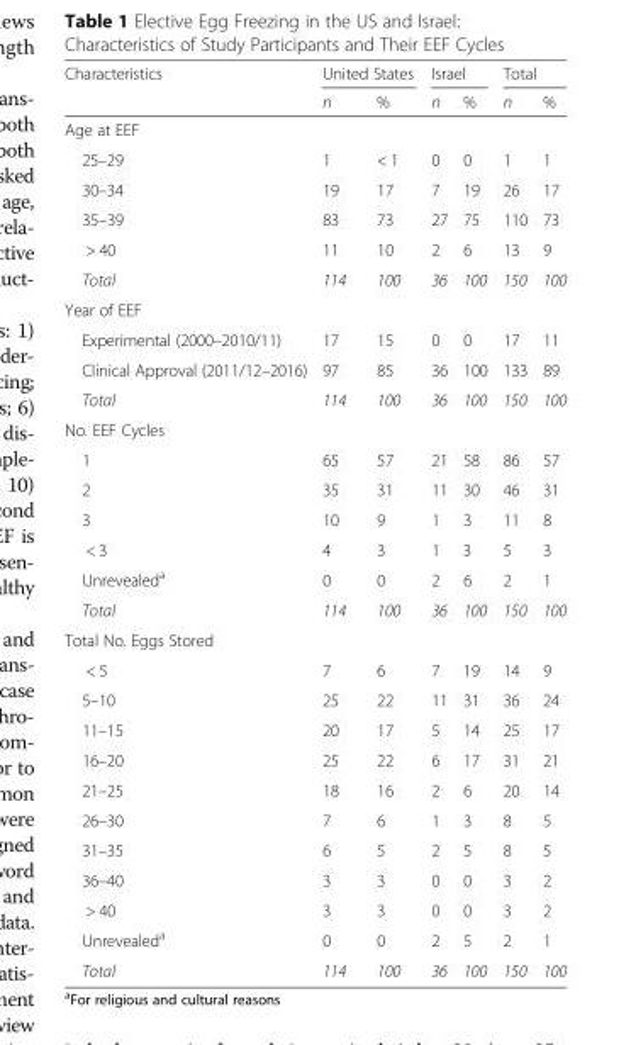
<table><thead><tr><td rowspan="2">Characteristics</td><td colspan="2">United States</td><td colspan="2">Israel</td><td colspan="2">Total</td></tr><tr><td>n</td><td>%</td><td>n</td><td>%</td><td>n</td><td>%</td></tr></thead><tbody><tr><td colspan="7">Age at EEF</td></tr><tr><td>25–29</td><td>1</td><td>&lt; 1</td><td>0</td><td>0</td><td>1</td><td>1</td></tr><tr><td>30–34</td><td>19</td><td>17</td><td>7</td><td>19</td><td>26</td><td>17</td></tr><tr><td>35–39</td><td>83</td><td>73</td><td>27</td><td>75</td><td>110</td><td>73</td></tr><tr><td>&gt; 40</td><td>11</td><td>10</td><td>2</td><td>6</td><td>13</td><td>9</td></tr><tr><td>Total</td><td>114</td><td>100</td><td>36</td><td>100</td><td>150</td><td>100</td></tr><tr><td colspan="7">Year of EEF</td></tr><tr><td>Experimental (2000–2010/11)</td><td>17</td><td>15</td><td>0</td><td>0</td><td>17</td><td>11</td></tr><tr><td>Clinical Approval (2011/12–2016)</td><td>97</td><td>85</td><td>36</td><td>100</td><td>133</td><td>89</td></tr><tr><td>Total</td><td>114</td><td>100</td><td>36</td><td>100</td><td>150</td><td>100</td></tr><tr><td colspan="7">No. EEF Cycles</td></tr><tr><td>1</td><td>65</td><td>57</td><td>21</td><td>58</td><td>86</td><td>57</td></tr><tr><td>2</td><td>35</td><td>31</td><td>11</td><td>30</td><td>46</td><td>31</td></tr><tr><td>3</td><td>10</td><td>9</td><td>1</td><td>3</td><td>11</td><td>8</td></tr><tr><td>&lt; 3</td><td>4</td><td>3</td><td>1</td><td>3</td><td>5</td><td>3</td></tr><tr><td>Unrevealed<sup>a</sup></td><td>0</td><td>0</td><td>2</td><td>6</td><td>2</td><td>1</td></tr><tr><td>Total</td><td>114</td><td>100</td><td>36</td><td>100</td><td>150</td><td>100</td></tr><tr><td colspan="7">Total No. Eggs Stored</td></tr><tr><td>&lt; 5</td><td>7</td><td>6</td><td>7</td><td>19</td><td>14</td><td>9</td></tr><tr><td>5–10</td><td>25</td><td>22</td><td>11</td><td>31</td><td>36</td><td>24</td></tr><tr><td>11–15</td><td>20</td><td>17</td><td>5</td><td>14</td><td>25</td><td>17</td></tr><tr><td>16–20</td><td>25</td><td>22</td><td>6</td><td>17</td><td>31</td><td>21</td></tr><tr><td>21–25</td><td>18</td><td>16</td><td>2</td><td>6</td><td>20</td><td>14</td></tr><tr><td>26–30</td><td>7</td><td>6</td><td>1</td><td>3</td><td>8</td><td>5</td></tr><tr><td>31–35</td><td>6</td><td>5</td><td>2</td><td>5</td><td>8</td><td>5</td></tr><tr><td>36–40</td><td>3</td><td>3</td><td>0</td><td>0</td><td>3</td><td>2</td></tr><tr><td>&gt; 40</td><td>3</td><td>3</td><td>0</td><td>0</td><td>3</td><td>2</td></tr><tr><td>Unrevealed<sup>a</sup></td><td>0</td><td>0</td><td>2</td><td>5</td><td>2</td><td>1</td></tr><tr><td>Total</td><td>114</td><td>100</td><td>36</td><td>100</td><td>150</td><td>100</td></tr></tbody></table>